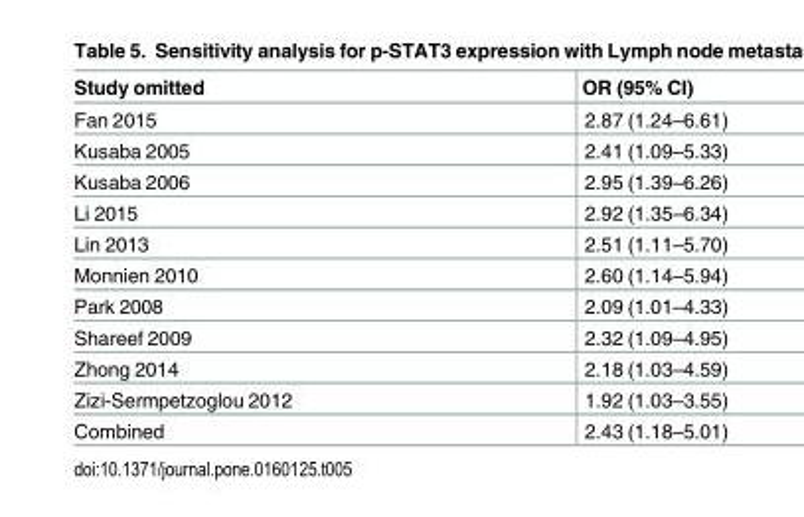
<table><thead><tr><td>Study omitted</td><td>OR (95% CI)</td></tr></thead><tbody><tr><td>Fan 2015</td><td>2.87 (1.24–6.61)</td></tr><tr><td>Kusaba 2005</td><td>2.41 (1.09–5.33)</td></tr><tr><td>Kusaba 2006</td><td>2.95 (1.39–6.26)</td></tr><tr><td>Li 2015</td><td>2.92 (1.35–6.34)</td></tr><tr><td>Lin 2013</td><td>2.51 (1.11–5.70)</td></tr><tr><td>Monnien 2010</td><td>2.60 (1.14–5.94)</td></tr><tr><td>Park 2008</td><td>2.09 (1.01–4.33)</td></tr><tr><td>Shareef 2009</td><td>2.32 (1.09–4.95)</td></tr><tr><td>Zhong 2014</td><td>2.18 (1.03–4.59)</td></tr><tr><td>Zizi-Sermpetzoglou 2012</td><td>1.92 (1.03–3.55)</td></tr><tr><td>Combined</td><td>2.43 (1.18–5.01)</td></tr></tbody></table>